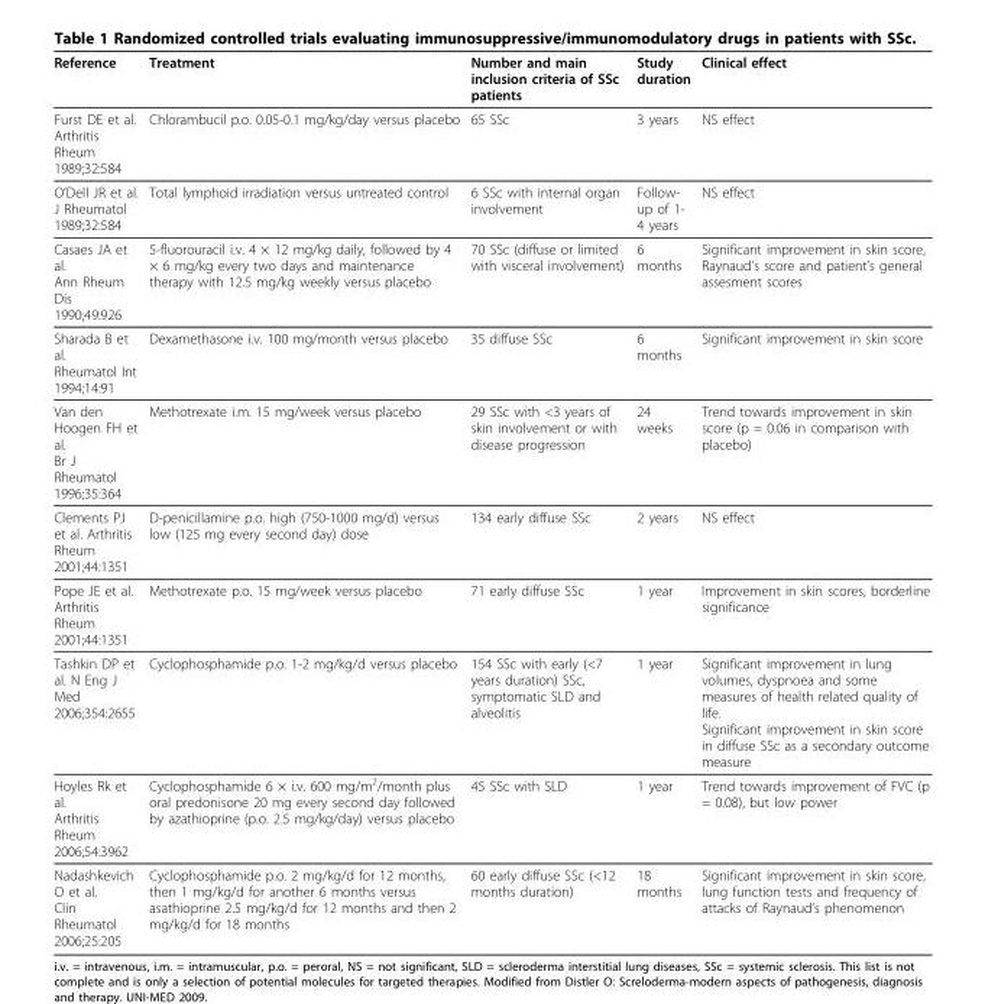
<table><thead><tr><td>Reference</td><td>Treatment</td><td>Number and main inclusion criteria of SSc patients</td><td>Study duration</td><td>Clinical effect</td></tr></thead><tbody><tr><td>Furst DE et al. Arthritis Rheum 1989;32:584</td><td>Chlorambucil p.o. 0.05-0.1 mg/kg/day versus placebo</td><td>65 SSc</td><td>3 years</td><td>NS effect</td></tr><tr><td>O’Dell JR et al. J Rheumatol 1989;32:584</td><td>Total lymphoid irradiation versus untreated control</td><td>6 SSc with internal organ involvement</td><td>Follow- up of 1- 4 years</td><td>NS effect</td></tr><tr><td>Casaes JA et al. Ann Rheum Dis 1990;49:926</td><td>5-fluorouracil i.v. 4 × 12 mg/kg daily, followed by 4 × 6 mg/kg every two days and maintenance therapy with 12.5 mg/kg weekly versus placebo</td><td>70 SSc (diffuse or limited with visceral involvement)</td><td>6 months</td><td>Significant improvement in skin score, Raynaud’s score and patient’s general assesment scores</td></tr><tr><td>Sharada B et al. Rheumatol Int 1994;14:91</td><td>Dexamethasone i.v. 100 mg/month versus placebo</td><td>35 diffuse SSc</td><td>6 months</td><td>Significant improvement in skin score</td></tr><tr><td>Van den Hoogen FH et al. Br J Rheumatol 1996;35:364</td><td>Methotrexate i.m. 15 mg/week versus placebo</td><td>29 SSc with &lt;3 years of skin involvement or with disease progression</td><td>24 weeks</td><td>Trend towards improvement in skin score (p = 0.06 in comparison with placebo)</td></tr><tr><td>Clements PJ et al. Arthritis Rheum 2001;44:1351</td><td>D-penicillamine p.o. high (750-1000 mg/d) versus low (125 mg every second day) dose</td><td>134 early diffuse SSc</td><td>2 years</td><td>NS effect</td></tr><tr><td>Pope JE et al. Arthritis Rheum 2001;44:1351</td><td>Methotrexate p.o. 15 mg/week versus placebo</td><td>71 early diffuse SSc</td><td>1 year</td><td>Improvement in skin scores, borderline significance</td></tr><tr><td>Tashkin DP et al. N Eng J Med 2006;354:2655</td><td>Cyclophosphamide p.o. 1-2 mg/kg/d versus placebo</td><td>154 SSc with early (&lt;7 years duration) SSc, symptomatic SLD and alveolitis</td><td>1 year</td><td>Significant improvement in lung volumes, dyspnoea and some measures of health related quality of life. Significant improvement in skin score in diffuse SSc as a secondary outcome measure</td></tr><tr><td>Hoyles Rk et al. Arthritis Rheum 2006;54:3962</td><td>Cyclophosphamide 6 × i.v. 600 mg/m<sup>2</sup>/month plus oral predonisone 20 mg every second day followed by azathioprine (p.o. 2.5 mg/kg/day) versus placebo</td><td>45 SSc with SLD</td><td>1 year</td><td>Trend towards improvement of FVC (p = 0.08), but low power</td></tr><tr><td>Nadashkevich O et al. Clin Rheumatol 2006;25:205</td><td>Cyclophosphamide p.o. 2 mg/kg/d for 12 months, then 1 mg/kg/d for another 6 months versus asathioprine 2.5 mg/kg/d for 12 months and then 2 mg/kg/d for 18 months</td><td>60 early diffuse SSc (&lt;12 months duration)</td><td>18 months</td><td>Significant improvement in skin score, lung function tests and frequency of attacks of Raynaud’s phenomenon</td></tr></tbody></table>